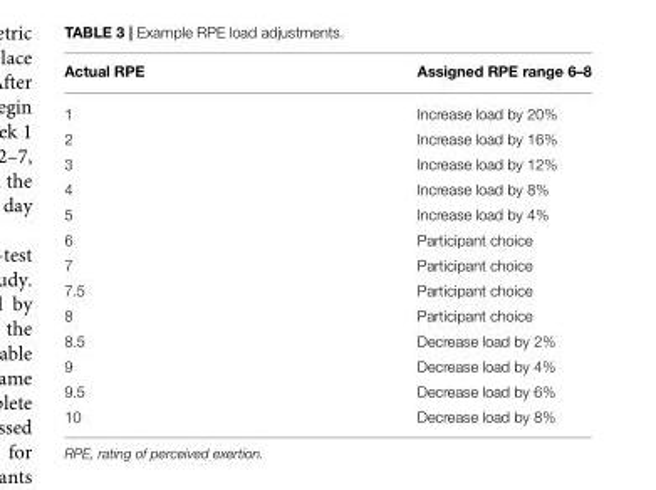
<table><thead><tr><td>Actual RPE</td><td>Assigned RPE range 6–8</td></tr></thead><tbody><tr><td>1</td><td>Increase load by 20%</td></tr><tr><td>2</td><td>Increase load by 16%</td></tr><tr><td>3</td><td>Increase load by 12%</td></tr><tr><td>4</td><td>Increase load by 8%</td></tr><tr><td>5</td><td>Increase load by 4%</td></tr><tr><td>6</td><td>Participant choice</td></tr><tr><td>7</td><td>Participant choice</td></tr><tr><td>7.5</td><td>Participant choice</td></tr><tr><td>8</td><td>Participant choice</td></tr><tr><td>8.5</td><td>Decrease load by 2%</td></tr><tr><td>9</td><td>Decrease load by 4%</td></tr><tr><td>9.5</td><td>Decrease load by 6%</td></tr><tr><td>10</td><td>Decrease load by 8%</td></tr></tbody></table>